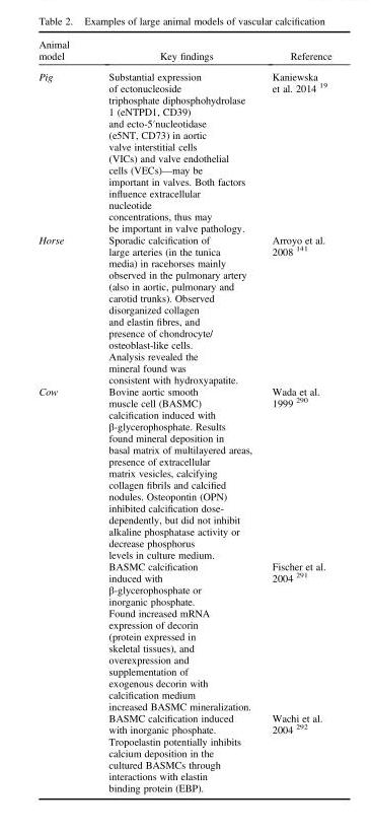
<table><thead><tr><td>Animal model</td><td>Key findings</td><td>Reference</td></tr></thead><tbody><tr><td>Pig</td><td>Substantial expression of ectonucleoside triphosphate diphosphohydrolase 1 (eNTPD1, CD39) and ecto-5′nucleotidase (e5NT, CD73) in aortic valve interstitial cells (VICs) and valve endothelial cells (VECs)—may be important in valves. Both factors influence extracellular nucleotide concentrations, thus may be important in valve pathology.</td><td>Kaniewska et al. 2014 19</td></tr><tr><td>Horse</td><td>Sporadic calcification of large arteries (in the tunica media) in racehorses mainly observed in the pulmonary artery (also in aortic, pulmonary and carotid trunks). Observed disorganized collagen and elastin fibres, and presence of chondrocyte/ osteoblast-like cells. Analysis revealed the mineral found was consistent with hydroxyapatite.</td><td>Arroyo et al. 2008 141</td></tr><tr><td rowspan="3">Cow</td><td>Bovine aortic smooth muscle cell (BASMC) calcification induced with β-glycerophosphate. Results found mineral deposition in basal matrix of multilayered areas, presence of extracellular matrix vesicles, calcifying collagen fibrils and calcified nodules. Osteopontin (OPN) inhibited calcification dose- dependently, but did not inhibit alkaline phosphatase activity or decrease phosphorus levels in culture medium.</td><td>Wada et al. 1999 290</td></tr><tr><td>BASMC calcification induced with β-glycerophosphate or inorganic phosphate. Found increased mRNA expression of decorin (protein expressed in skeletal tissues), and overexpression and supplementation of exogenous decorin with calcification medium increased BASMC mineralization.</td><td>Fischer et al. 2004 291</td></tr><tr><td>BASMC calcification induced with inorganic phosphate. Tropoelastin potentially inhibits calcium deposition in the cultured BASMCs through interactions with elastin binding protein (EBP).</td><td>Wachi et al. 2004 292</td></tr></tbody></table>